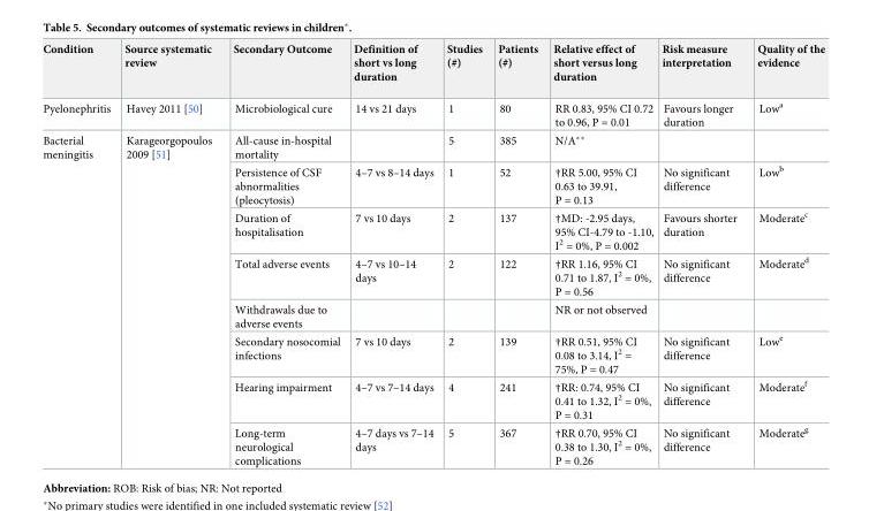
<table><thead><tr><td>Condition</td><td>Source systematic review</td><td>Secondary Outcome</td><td>Definition of short vs long duration</td><td>Studies (#)</td><td>Patients (#)</td><td>Relative effect of short versus long duration</td><td>Risk measure interpretation</td><td>Quality of the evidence</td></tr></thead><tbody><tr><td>Pyelonephritis</td><td>Havey 2011 [50]</td><td>Microbiological cure</td><td>14 vs 21 days</td><td>1</td><td>80</td><td>RR 0.83, 95% CI 0.72 to 0.96, P = 0.01</td><td>Favours longer duration</td><td>Low<sup>a</sup></td></tr><tr><td rowspan="8">Bacterial meningitis</td><td rowspan="8">Karageorgopoulos 2009 [51]</td><td>All-cause in-hospital mortality</td><td></td><td>5</td><td>385</td><td>N/A**</td><td></td><td></td></tr><tr><td>Persistence of CSF abnormalities (pleocytosis)</td><td>4–7 vs 8–14 days</td><td>1</td><td>52</td><td>†RR 5.00, 95% CI 0.63 to 39.91, P = 0.13</td><td>No significant difference</td><td>Low<sup>b</sup></td></tr><tr><td>Duration of hospitalisation</td><td>7 vs 10 days</td><td>2</td><td>137</td><td>†MD: -2.95 days, 95% CI-4.79 to -1.10, I<sup>2</sup> = 0%, P = 0.002</td><td>Favours shorter duration</td><td>Moderate<sup>c</sup></td></tr><tr><td>Total adverse events</td><td>4–7 vs 10–14 days</td><td>2</td><td>122</td><td>†RR 1.16, 95% CI 0.71 to 1.87, I<sup>2</sup> = 0%, P = 0.56</td><td>No significant difference</td><td>Moderate<sup>d</sup></td></tr><tr><td>Withdrawals due to adverse events</td><td></td><td></td><td></td><td>NR or not observed</td><td></td><td></td></tr><tr><td>Secondary nosocomial infections</td><td>7 vs 10 days</td><td>2</td><td>139</td><td>†RR 0.51, 95% CI 0.08 to 3.14, I<sup>2</sup> = 75%, P = 0.47</td><td>No significant difference</td><td>Low<sup>e</sup></td></tr><tr><td>Hearing impairment</td><td>4–7 vs 7–14 days</td><td>4</td><td>241</td><td>†RR: 0.74, 95% CI 0.41 to 1.32, I<sup>2</sup> = 0%, P = 0.31</td><td>No significant difference</td><td>Moderate<sup>f</sup></td></tr><tr><td>Long-term neurological complications</td><td>4–7 days vs 7–14 days</td><td>5</td><td>367</td><td>†RR 0.70, 95% CI 0.38 to 1.30, I<sup>2</sup> = 0%, P = 0.26</td><td>No significant difference</td><td>Moderate<sup>g</sup></td></tr></tbody></table>